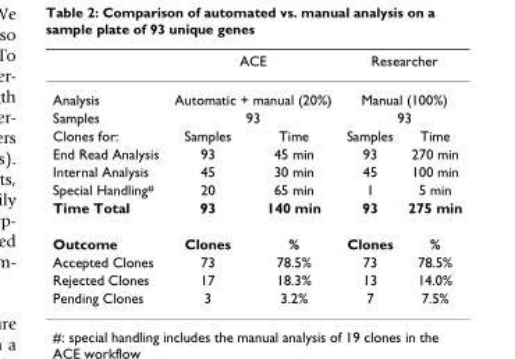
<table><thead><tr><td rowspan="4">Analysis Samples Clones for:</td><td rowspan="3" colspan="2">ACE Automatic + manual (20%) 93</td><td rowspan="3" colspan="2">Researcher Manual (100%) 93</td></tr><tr></tr><tr></tr><tr><td>Samples</td><td>Time</td><td>Samples</td><td>Time</td></tr></thead><tbody><tr><td>End Read Analysis</td><td>93</td><td>45 min</td><td>93</td><td>270 min</td></tr><tr><td>Internal Analysis</td><td>45</td><td>30 min</td><td>45</td><td>100 min</td></tr><tr><td>Special Handling<sup>#</sup></td><td>20</td><td>65 min</td><td>1</td><td>5 min</td></tr><tr><td>Time Total</td><td>93</td><td>140 min</td><td>93</td><td>275 min</td></tr><tr><td>Outcome</td><td>Clones</td><td>%</td><td>Clones</td><td>%</td></tr><tr><td>Accepted Clones</td><td>73</td><td>78.5%</td><td>73</td><td>78.5%</td></tr><tr><td>Rejected Clones</td><td>17</td><td>18.3%</td><td>13</td><td>14.0%</td></tr><tr><td>Pending Clones</td><td>3</td><td>3.2%</td><td>7</td><td>7.5%</td></tr></tbody></table>